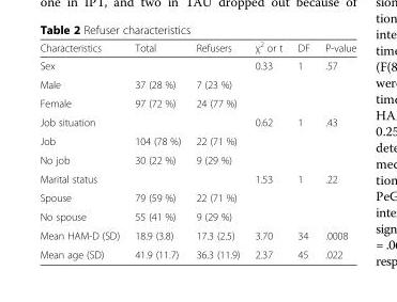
<table><thead><tr><td>Characteristics</td><td>Total</td><td>Refusers</td><td>χ<sup>2</sup> or t</td><td>DF</td><td>P-value</td></tr></thead><tbody><tr><td>Sex</td><td></td><td></td><td>0.33</td><td>1</td><td>.57</td></tr><tr><td>Male</td><td>37 (28 %)</td><td>7 (23 %)</td><td></td><td></td><td></td></tr><tr><td>Female</td><td>97 (72 %)</td><td>24 (77 %)</td><td></td><td></td><td></td></tr><tr><td>Job situation</td><td></td><td></td><td>0.62</td><td>1</td><td>.43</td></tr><tr><td>Job</td><td>104 (78 %)</td><td>22 (71 %)</td><td></td><td></td><td></td></tr><tr><td>No job</td><td>30 (22 %)</td><td>9 (29 %)</td><td></td><td></td><td></td></tr><tr><td>Marital status</td><td></td><td></td><td>1.53</td><td>1</td><td>.22</td></tr><tr><td>Spouse</td><td>79 (59 %)</td><td>22 (71 %)</td><td></td><td></td><td></td></tr><tr><td>No spouse</td><td>55 (41 %)</td><td>9 (29 %)</td><td></td><td></td><td></td></tr><tr><td>Mean HAM-D (SD)</td><td>18.9 (3.8)</td><td>17.3 (2.5)</td><td>3.70</td><td>34</td><td>.0008</td></tr><tr><td>Mean age (SD)</td><td>41.9 (11.7)</td><td>36.3 (11.9)</td><td>2.37</td><td>45</td><td>.022</td></tr></tbody></table>